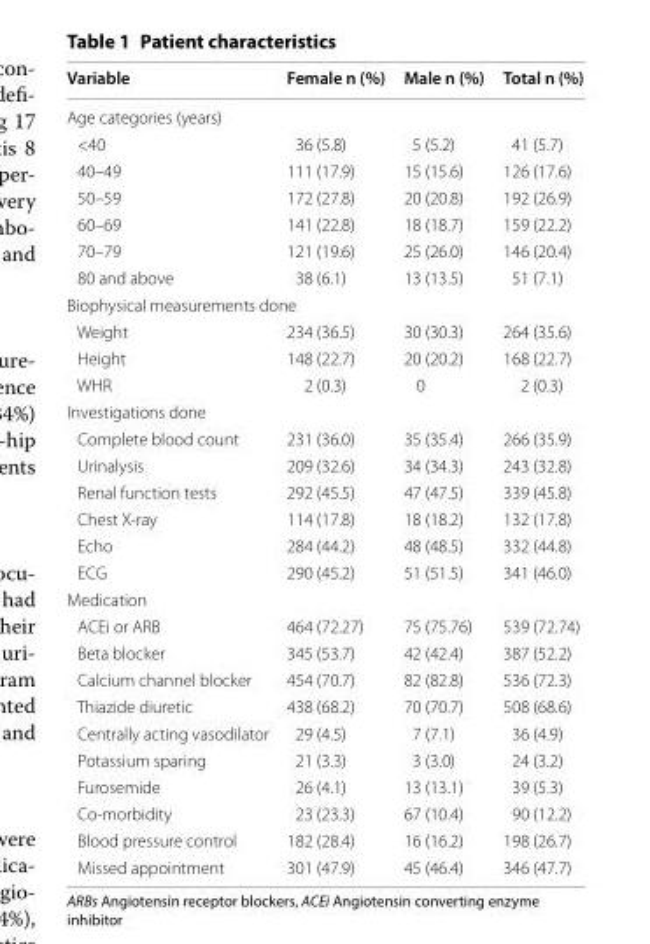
<table><thead><tr><td>Variable</td><td>Female n (%)</td><td>Male n (%)</td><td>Total n (%)</td></tr></thead><tbody><tr><td colspan="4">Age categories (years)</td></tr><tr><td>&lt;40</td><td>36 (5.8)</td><td>5 (5.2)</td><td>41 (5.7)</td></tr><tr><td>40–49</td><td>111 (17.9)</td><td>15 (15.6)</td><td>126 (17.6)</td></tr><tr><td>50–59</td><td>172 (27.8)</td><td>20 (20.8)</td><td>192 (26.9)</td></tr><tr><td>60–69</td><td>141 (22.8)</td><td>18 (18.7)</td><td>159 (22.2)</td></tr><tr><td>70–79</td><td>121 (19.6)</td><td>25 (26.0)</td><td>146 (20.4)</td></tr><tr><td>80 and above</td><td>38 (6.1)</td><td>13 (13.5)</td><td>51 (7.1)</td></tr><tr><td colspan="4">Biophysical measurements done</td></tr><tr><td>Weight</td><td>234 (36.5)</td><td>30 (30.3)</td><td>264 (35.6)</td></tr><tr><td>Height</td><td>148 (22.7)</td><td>20 (20.2)</td><td>168 (22.7)</td></tr><tr><td>WHR</td><td>2 (0.3)</td><td>0</td><td>2 (0.3)</td></tr><tr><td colspan="4">Investigations done</td></tr><tr><td>Complete blood count</td><td>231 (36.0)</td><td>35 (35.4)</td><td>266 (35.9)</td></tr><tr><td>Urinalysis</td><td>209 (32.6)</td><td>34 (34.3)</td><td>243 (32.8)</td></tr><tr><td>Renal function tests</td><td>292 (45.5)</td><td>47 (47.5)</td><td>339 (45.8)</td></tr><tr><td>Chest X-ray</td><td>114 (17.8)</td><td>18 (18.2)</td><td>132 (17.8)</td></tr><tr><td>Echo</td><td>284 (44.2)</td><td>48 (48.5)</td><td>332 (44.8)</td></tr><tr><td>ECG</td><td>290 (45.2)</td><td>51 (51.5)</td><td>341 (46.0)</td></tr><tr><td colspan="4">Medication</td></tr><tr><td>ACEi or ARB</td><td>464 (72.27)</td><td>75 (75.76)</td><td>539 (72.74)</td></tr><tr><td>Beta blocker</td><td>345 (53.7)</td><td>42 (42.4)</td><td>387 (52.2)</td></tr><tr><td>Calcium channel blocker</td><td>454 (70.7)</td><td>82 (82.8)</td><td>536 (72.3)</td></tr><tr><td>Thiazide diuretic</td><td>438 (68.2)</td><td>70 (70.7)</td><td>508 (68.6)</td></tr><tr><td>Centrally acting vasodilator</td><td>29 (4.5)</td><td>7 (7.1)</td><td>36 (4.9)</td></tr><tr><td>Potassium sparing</td><td>21 (3.3)</td><td>3 (3.0)</td><td>24 (3.2)</td></tr><tr><td>Furosemide</td><td>26 (4.1)</td><td>13 (13.1)</td><td>39 (5.3)</td></tr><tr><td>Co-morbidity</td><td>23 (23.3)</td><td>67 (10.4)</td><td>90 (12.2)</td></tr><tr><td>Blood pressure control</td><td>182 (28.4)</td><td>16 (16.2)</td><td>198 (26.7)</td></tr><tr><td>Missed appointment</td><td>301 (47.9)</td><td>45 (46.4)</td><td>346 (47.7)</td></tr></tbody></table>